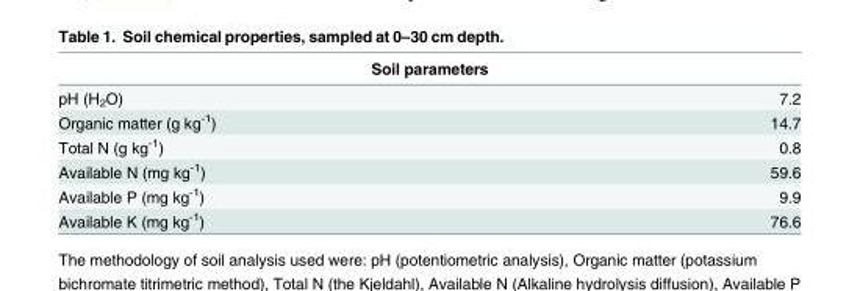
<table><thead><tr><td colspan="2">Soil parameters</td></tr><tr><td>pH (H<sub>2</sub>O)</td><td>7.2</td></tr></thead><tbody><tr><td>Organic matter (g kg<sup>-1</sup>)</td><td>14.7</td></tr><tr><td>Total N (g kg<sup>-1</sup>)</td><td>0.8</td></tr><tr><td>Available N (mg kg<sup>-1</sup>)</td><td>59.6</td></tr><tr><td>Available P (mg kg<sup>-1</sup>)</td><td>9.9</td></tr><tr><td>Available K (mg kg<sup>-1</sup>)</td><td>76.6</td></tr></tbody></table>